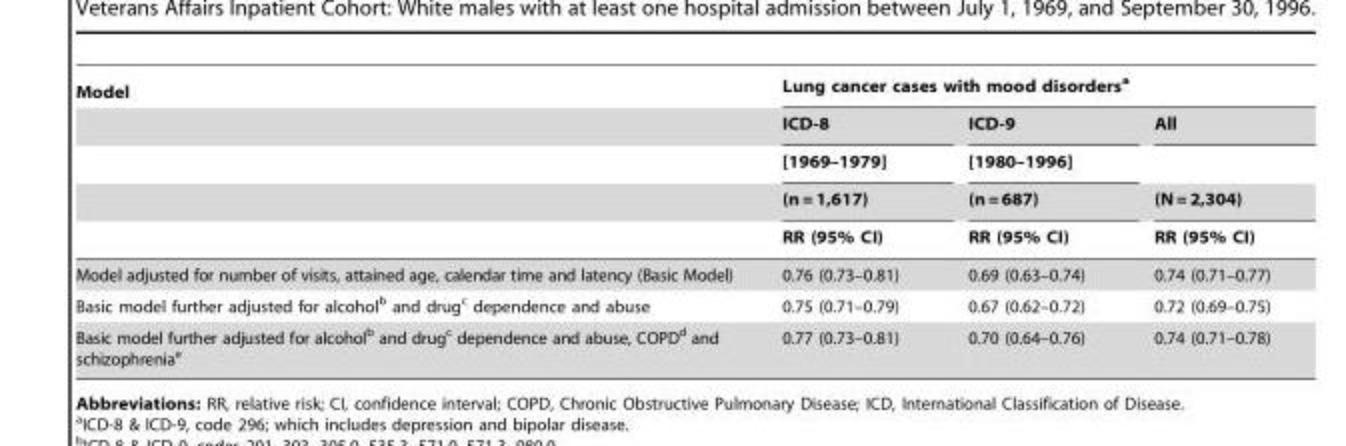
<table><thead><tr><td rowspan="5">Model</td><td colspan="3">Lung cancer cases with mood disorders<sup>a</sup></td></tr><tr><td rowspan="4">ICD-8 [1969–1979] (n = 1,617) RR (95% CI)</td><td rowspan="4">ICD-9 [1980–1996] (n = 687) RR (95% CI)</td><td rowspan="4">All (N = 2,304) RR (95% CI)</td></tr><tr></tr><tr></tr><tr></tr></thead><tbody><tr><td>Model adjusted for number of visits, attained age, calendar time and latency (Basic Model)</td><td>0.76 (0.73–0.81)</td><td>0.69 (0.63–0.74)</td><td>0.74 (0.71–0.77)</td></tr><tr><td>Basic model further adjusted for alcohol<sup>b</sup> and drug<sup>c</sup> dependence and abuse</td><td>0.75 (0.71–0.79)</td><td>0.67 (0.62–0.72)</td><td>0.72 (0.69–0.75)</td></tr><tr><td>Basic model further adjusted for alcohol<sup>b</sup> and drug<sup>c</sup> dependence and abuse, COPD<sup>d</sup> and schizophrenia<sup>e</sup></td><td>0.77 (0.73–0.81)</td><td>0.70 (0.64–0.76)</td><td>0.74 (0.71–0.78)</td></tr></tbody></table>